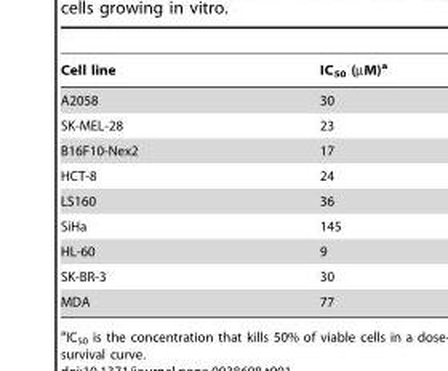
<table><thead><tr><td>Cell line</td><td>IC<sub>50</sub> (µM)<sup>a</sup></td></tr></thead><tbody><tr><td>A2058</td><td>30</td></tr><tr><td>SK-MEL-28</td><td>23</td></tr><tr><td>B16F10-Nex2</td><td>17</td></tr><tr><td>HCT-8</td><td>24</td></tr><tr><td>LS160</td><td>36</td></tr><tr><td>SiHa</td><td>145</td></tr><tr><td>HL-60</td><td>9</td></tr><tr><td>SK-BR-3</td><td>30</td></tr><tr><td>MDA</td><td>77</td></tr></tbody></table>